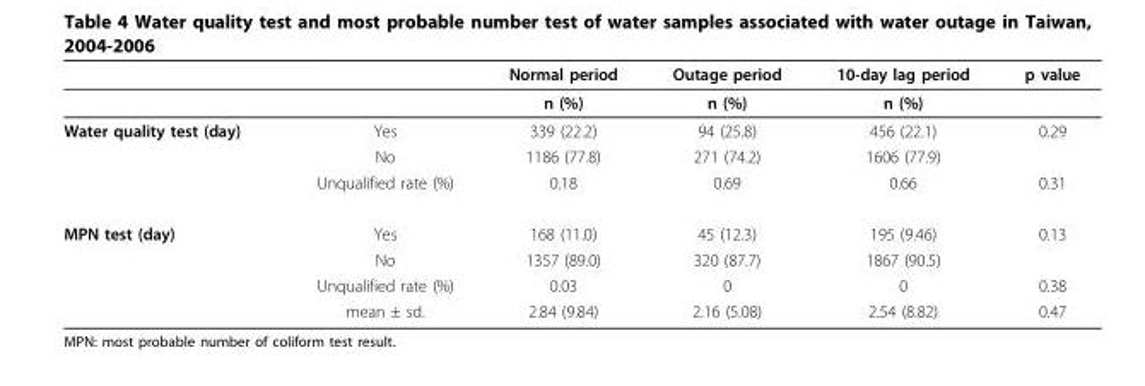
<table><thead><tr><td></td><td></td><td>Normal period</td><td>Outage period</td><td>10-day lag period</td><td>p value</td></tr></thead><tbody><tr><td></td><td></td><td>n (%)</td><td>n (%)</td><td>n (%)</td><td></td></tr><tr><td rowspan="3">Water quality test (day)</td><td>Yes</td><td>339 (22.2)</td><td>94 (25.8)</td><td>456 (22.1)</td><td>0.29</td></tr><tr><td>No</td><td>1186 (77.8)</td><td>271 (74.2)</td><td>1606 (77.9)</td><td></td></tr><tr><td>Unqualified rate (%)</td><td>0.18</td><td>0.69</td><td>0.66</td><td>0.31</td></tr><tr><td rowspan="4">MPN test (day)</td><td>Yes</td><td>168 (11.0)</td><td>45 (12.3)</td><td>195 (9.46)</td><td>0.13</td></tr><tr><td>No</td><td>1357 (89.0)</td><td>320 (87.7)</td><td>1867 (90.5)</td><td></td></tr><tr><td>Unqualified rate (%)</td><td>0.03</td><td>0</td><td>0</td><td>0.38</td></tr><tr><td>mean ± sd.</td><td>2.84 (9.84)</td><td>2.16 (5.08)</td><td>2.54 (8.82)</td><td>0.47</td></tr></tbody></table>